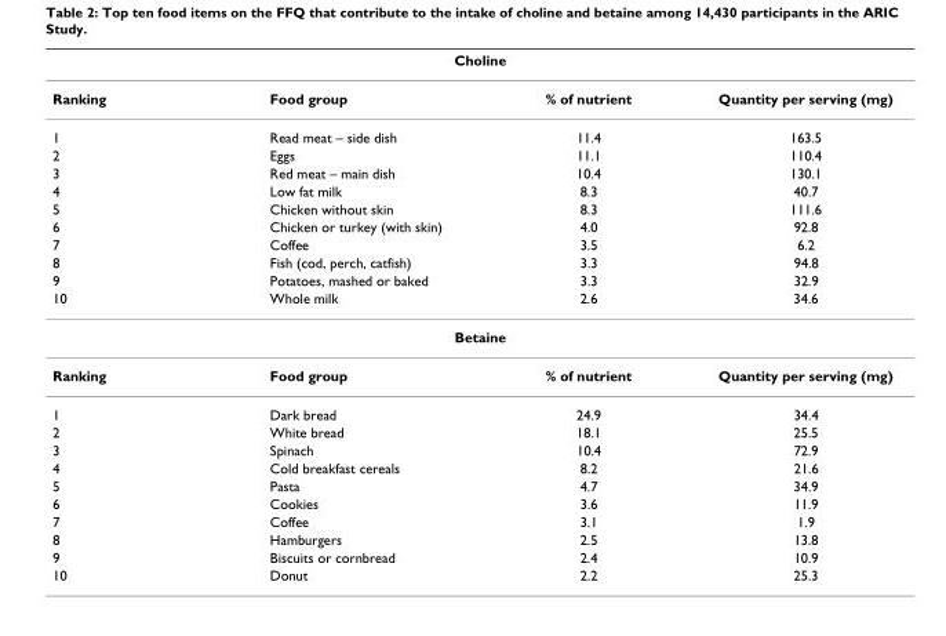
<table><thead><tr><td colspan="4">Choline</td></tr><tr><td>Ranking</td><td>Food group</td><td>% of nutrient</td><td>Quantity per serving (mg)</td></tr></thead><tbody><tr><td>1</td><td>Read meat – side dish</td><td>11.4</td><td>163.5</td></tr><tr><td>2</td><td>Eggs</td><td>11.1</td><td>110.4</td></tr><tr><td>3</td><td>Red meat – main dish</td><td>10.4</td><td>130.1</td></tr><tr><td>4</td><td>Low fat milk</td><td>8.3</td><td>40.7</td></tr><tr><td>5</td><td>Chicken without skin</td><td>8.3</td><td>111.6</td></tr><tr><td>6</td><td>Chicken or turkey (with skin)</td><td>4.0</td><td>92.8</td></tr><tr><td>7</td><td>Coffee</td><td>3.5</td><td>6.2</td></tr><tr><td>8</td><td>Fish (cod, perch, catfish)</td><td>3.3</td><td>94.8</td></tr><tr><td>9</td><td>Potatoes, mashed or baked</td><td>3.3</td><td>32.9</td></tr><tr><td>10</td><td>Whole milk</td><td>2.6</td><td>34.6</td></tr><tr><td colspan="4">Betaine</td></tr><tr><td>Ranking</td><td>Food group</td><td>% of nutrient</td><td>Quantity per serving (mg)</td></tr><tr><td>1</td><td>Dark bread</td><td>24.9</td><td>34.4</td></tr><tr><td>2</td><td>White bread</td><td>18.1</td><td>25.5</td></tr><tr><td>3</td><td>Spinach</td><td>10.4</td><td>72.9</td></tr><tr><td>4</td><td>Cold breakfast cereals</td><td>8.2</td><td>21.6</td></tr><tr><td>5</td><td>Pasta</td><td>4.7</td><td>34.9</td></tr><tr><td>6</td><td>Cookies</td><td>3.6</td><td>11.9</td></tr><tr><td>7</td><td>Coffee</td><td>3.1</td><td>1.9</td></tr><tr><td>8</td><td>Hamburgers</td><td>2.5</td><td>13.8</td></tr><tr><td>9</td><td>Biscuits or cornbread</td><td>2.4</td><td>10.9</td></tr><tr><td>10</td><td>Donut</td><td>2.2</td><td>25.3</td></tr></tbody></table>